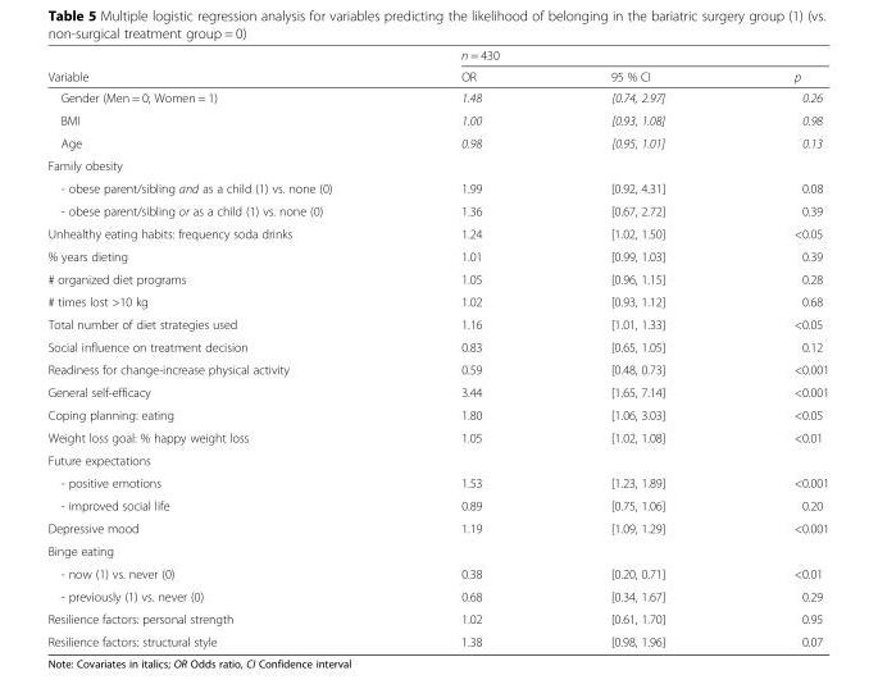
<table><thead><tr><td rowspan="2">Variable</td><td colspan="3">n = 430</td></tr><tr><td>OR</td><td>95 % CI</td><td>p</td></tr></thead><tbody><tr><td>Gender (Men = 0; Women = 1)</td><td>1.48</td><td>[0.74, 2.97]</td><td>0.26</td></tr><tr><td>BMI</td><td>1.00</td><td>[0.93, 1.08]</td><td>0.98</td></tr><tr><td>Age</td><td>0.98</td><td>[0.95, 1.01]</td><td>0.13</td></tr><tr><td colspan="4">Family obesity</td></tr><tr><td>- obese parent/sibling and as a child (1) vs. none (0)</td><td>1.99</td><td>[0.92, 4.31]</td><td>0.08</td></tr><tr><td>- obese parent/sibling or as a child (1) vs. none (0)</td><td>1.36</td><td>[0.67, 2.72]</td><td>0.39</td></tr><tr><td>Unhealthy eating habits: frequency soda drinks</td><td>1.24</td><td>[1.02, 1.50]</td><td>&lt;0.05</td></tr><tr><td>% years dieting</td><td>1.01</td><td>[0.99, 1.03]</td><td>0.39</td></tr><tr><td># organized diet programs</td><td>1.05</td><td>[0.96, 1.15]</td><td>0.28</td></tr><tr><td># times lost &gt;10 kg</td><td>1.02</td><td>[0.93, 1.12]</td><td>0.68</td></tr><tr><td>Total number of diet strategies used</td><td>1.16</td><td>[1.01, 1.33]</td><td>&lt;0.05</td></tr><tr><td>Social influence on treatment decision</td><td>0.83</td><td>[0.65, 1.05]</td><td>0.12</td></tr><tr><td>Readiness for change-increase physical activity</td><td>0.59</td><td>[0.48, 0.73]</td><td>&lt;0.001</td></tr><tr><td>General self-efficacy</td><td>3.44</td><td>[1.65, 7.14]</td><td>&lt;0.001</td></tr><tr><td>Coping planning: eating</td><td>1.80</td><td>[1.06, 3.03]</td><td>&lt;0.05</td></tr><tr><td>Weight loss goal: % happy weight loss</td><td>1.05</td><td>[1.02, 1.08]</td><td>&lt;0.01</td></tr><tr><td colspan="4">Future expectations</td></tr><tr><td>- positive emotions</td><td>1.53</td><td>[1.23, 1.89]</td><td>&lt;0.001</td></tr><tr><td>- improved social life</td><td>0.89</td><td>[0.75, 1.06]</td><td>0.20</td></tr><tr><td>Depressive mood</td><td>1.19</td><td>[1.09, 1.29]</td><td>&lt;0.001</td></tr><tr><td colspan="4">Binge eating</td></tr><tr><td>- now (1) vs. never (0)</td><td>0.38</td><td>[0.20, 0.71]</td><td>&lt;0.01</td></tr><tr><td>- previously (1) vs. never (0)</td><td>0.68</td><td>[0.34, 1.67]</td><td>0.29</td></tr><tr><td>Resilience factors: personal strength</td><td>1.02</td><td>[0.61, 1.70]</td><td>0.95</td></tr><tr><td>Resilience factors: structural style</td><td>1.38</td><td>[0.98, 1.96]</td><td>0.07</td></tr></tbody></table>